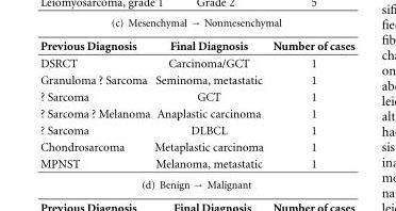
<table><thead><tr><td>Previous Diagnosis</td><td>Final Diagnosis</td><td>Number of cases</td></tr></thead><tbody><tr><td>DSRCT</td><td>Carcinoma/GCT</td><td>1</td></tr><tr><td>Granuloma ? Sarcoma</td><td>Seminoma, metastatic</td><td>1</td></tr><tr><td>? Sarcoma</td><td>GCT</td><td>1</td></tr><tr><td>? Sarcoma ? Melanoma</td><td>Anaplastic carcinoma</td><td>1</td></tr><tr><td>? Sarcoma</td><td>DLBCL</td><td>1</td></tr><tr><td>Chondrosarcoma</td><td>Metaplastic carcinoma</td><td>1</td></tr><tr><td>MPNST</td><td>Melanoma, metastatic</td><td>1</td></tr></tbody></table>